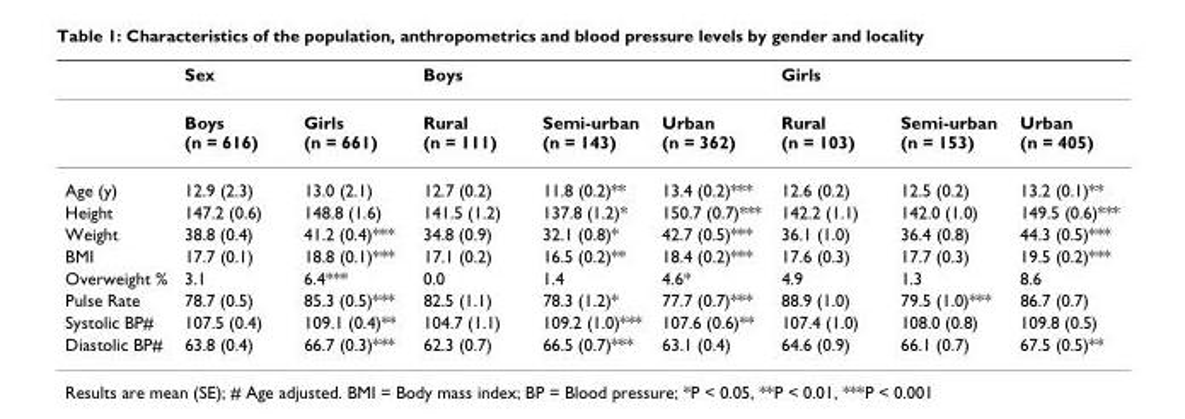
<table><thead><tr><td rowspan="2"></td><td colspan="2">Sex</td><td colspan="3">Boys</td><td colspan="3">Girls</td></tr><tr><td>Boys (n = 616)</td><td>Girls (n = 661)</td><td>Rural (n = 111)</td><td>Semi-urban (n = 143)</td><td>Urban (n = 362)</td><td>Rural (n = 103)</td><td>Semi-urban (n = 153)</td><td>Urban (n = 405)</td></tr></thead><tbody><tr><td>Age (y)</td><td>12.9 (2.3)</td><td>13.0 (2.1)</td><td>12.7 (0.2)</td><td>11.8 (0.2)**</td><td>13.4 (0.2)***</td><td>12.6 (0.2)</td><td>12.5 (0.2)</td><td>13.2 (0.1)**</td></tr><tr><td>Height</td><td>147.2 (0.6)</td><td>148.8 (1.6)</td><td>141.5 (1.2)</td><td>137.8 (1.2)*</td><td>150.7 (0.7)***</td><td>142.2 (1.1)</td><td>142.0 (1.0)</td><td>149.5 (0.6)***</td></tr><tr><td>Weight</td><td>38.8 (0.4)</td><td>41.2 (0.4)***</td><td>34.8 (0.9)</td><td>32.1 (0.8)*</td><td>42.7 (0.5)***</td><td>36.1 (1.0)</td><td>36.4 (0.8)</td><td>44.3 (0.5)***</td></tr><tr><td>BMI</td><td>17.7 (0.1)</td><td>18.8 (0.1)***</td><td>17.1 (0.2)</td><td>16.5 (0.2)**</td><td>18.4 (0.2)***</td><td>17.6 (0.3)</td><td>17.7 (0.3)</td><td>19.5 (0.2)***</td></tr><tr><td>Overweight %</td><td>3.1</td><td>6.4***</td><td>0.0</td><td>1.4</td><td>4.6*</td><td>4.9</td><td>1.3</td><td>8.6</td></tr><tr><td>Pulse Rate</td><td>78.7 (0.5)</td><td>85.3 (0.5)***</td><td>82.5 (1.1)</td><td>78.3 (1.2)*</td><td>77.7 (0.7)***</td><td>88.9 (1.0)</td><td>79.5 (1.0)***</td><td>86.7 (0.7)</td></tr><tr><td>Systolic BP#</td><td>107.5 (0.4)</td><td>109.1 (0.4)**</td><td>104.7 (1.1)</td><td>109.2 (1.0)***</td><td>107.6 (0.6)**</td><td>107.4 (1.0)</td><td>108.0 (0.8)</td><td>109.8 (0.5)</td></tr><tr><td>Diastolic BP#</td><td>63.8 (0.4)</td><td>66.7 (0.3)***</td><td>62.3 (0.7)</td><td>66.5 (0.7)***</td><td>63.1 (0.4)</td><td>64.6 (0.9)</td><td>66.1 (0.7)</td><td>67.5 (0.5)**</td></tr></tbody></table>